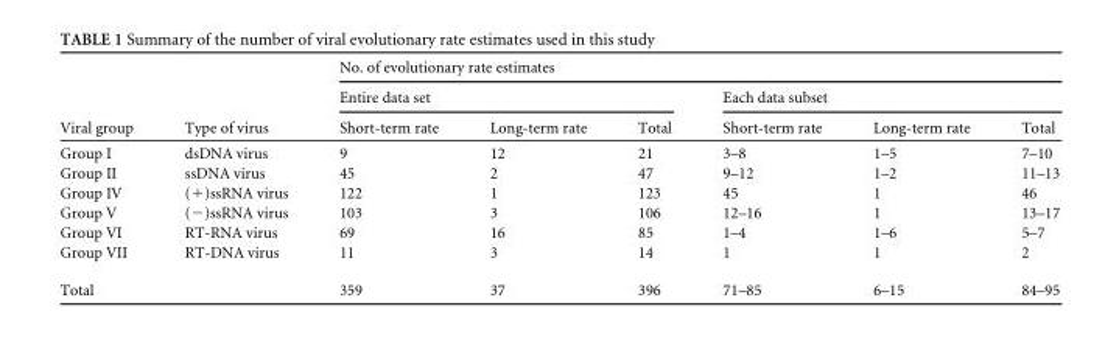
<table><thead><tr><td rowspan="3">Viral group</td><td rowspan="3">Type of virus</td><td colspan="6">No. of evolutionary rate estimates</td></tr><tr><td colspan="3">Entire data set</td><td colspan="3">Each data subset</td></tr><tr><td>Short-term rate</td><td>Long-term rate</td><td>Total</td><td>Short-term rate</td><td>Long-term rate</td><td>Total</td></tr></thead><tbody><tr><td>Group I</td><td>dsDNA virus</td><td>9</td><td>12</td><td>21</td><td>3–8</td><td>1–5</td><td>7–10</td></tr><tr><td>Group II</td><td>ssDNA virus</td><td>45</td><td>2</td><td>47</td><td>9–12</td><td>1–2</td><td>11–13</td></tr><tr><td>Group IV</td><td>(+)ssRNA virus</td><td>122</td><td>1</td><td>123</td><td>45</td><td>1</td><td>46</td></tr><tr><td>Group V</td><td>(−)ssRNA virus</td><td>103</td><td>3</td><td>106</td><td>12–16</td><td>1</td><td>13–17</td></tr><tr><td>Group VI</td><td>RT-RNA virus</td><td>69</td><td>16</td><td>85</td><td>1–4</td><td>1–6</td><td>5–7</td></tr><tr><td>Group VII</td><td>RT-DNA virus</td><td>11</td><td>3</td><td>14</td><td>1</td><td>1</td><td>2</td></tr><tr><td>Total</td><td></td><td>359</td><td>37</td><td>396</td><td>71–85</td><td>6–15</td><td>84–95</td></tr></tbody></table>